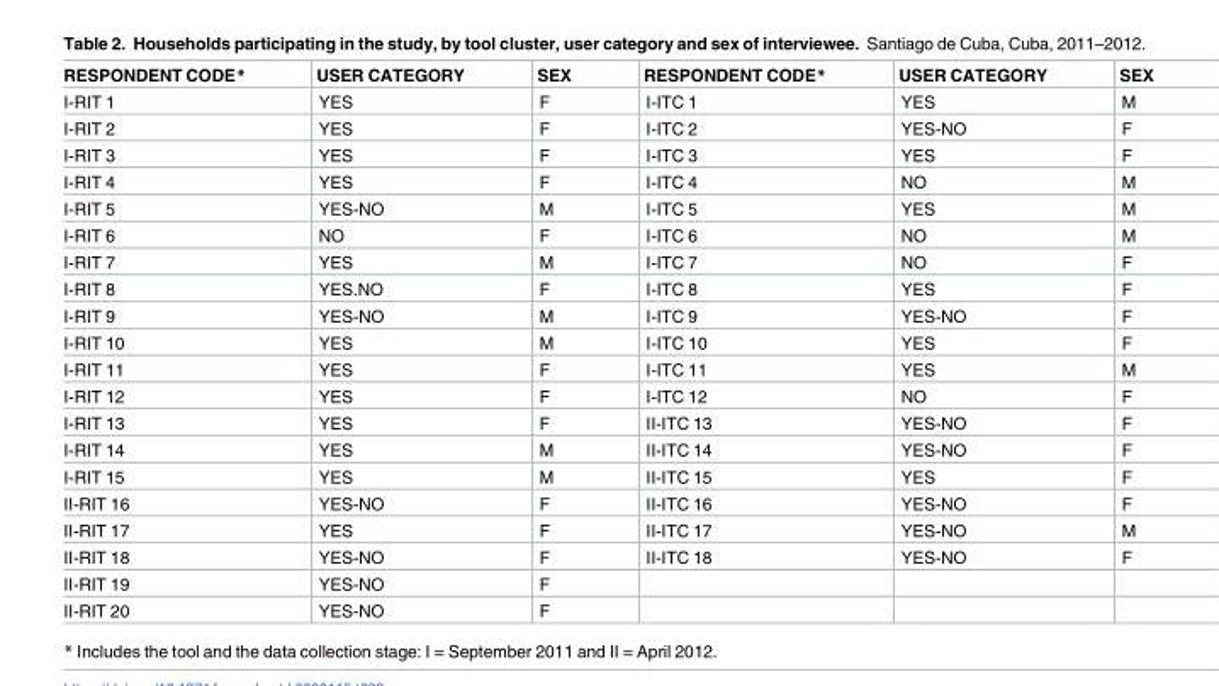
<table><thead><tr><td>RESPONDENT CODE*</td><td>USER CATEGORY</td><td>SEX</td><td>RESPONDENT CODE*</td><td>USER CATEGORY</td><td>SEX</td></tr></thead><tbody><tr><td>I-RIT 1</td><td>YES</td><td>F</td><td>I-ITC 1</td><td>YES</td><td>M</td></tr><tr><td>I-RIT 2</td><td>YES</td><td>F</td><td>I-ITC 2</td><td>YES-NO</td><td>F</td></tr><tr><td>I-RIT 3</td><td>YES</td><td>F</td><td>I-ITC 3</td><td>YES</td><td>F</td></tr><tr><td>I-RIT 4</td><td>YES</td><td>F</td><td>I-ITC 4</td><td>NO</td><td>M</td></tr><tr><td>I-RIT 5</td><td>YES-NO</td><td>M</td><td>I-ITC 5</td><td>YES</td><td>M</td></tr><tr><td>I-RIT 6</td><td>NO</td><td>F</td><td>I-ITC 6</td><td>NO</td><td>M</td></tr><tr><td>I-RIT 7</td><td>YES</td><td>M</td><td>I-ITC 7</td><td>NO</td><td>F</td></tr><tr><td>I-RIT 8</td><td>YES.NO</td><td>F</td><td>I-ITC 8</td><td>YES</td><td>F</td></tr><tr><td>I-RIT 9</td><td>YES-NO</td><td>M</td><td>I-ITC 9</td><td>YES-NO</td><td>F</td></tr><tr><td>I-RIT 10</td><td>YES</td><td>M</td><td>I-ITC 10</td><td>YES</td><td>F</td></tr><tr><td>I-RIT 11</td><td>YES</td><td>F</td><td>I-ITC 11</td><td>YES</td><td>M</td></tr><tr><td>I-RIT 12</td><td>YES</td><td>F</td><td>I-ITC 12</td><td>NO</td><td>F</td></tr><tr><td>I-RIT 13</td><td>YES</td><td>F</td><td>II-ITC 13</td><td>YES-NO</td><td>F</td></tr><tr><td>I-RIT 14</td><td>YES</td><td>M</td><td>II-ITC 14</td><td>YES-NO</td><td>F</td></tr><tr><td>I-RIT 15</td><td>YES</td><td>M</td><td>II-ITC 15</td><td>YES</td><td>F</td></tr><tr><td>II-RIT 16</td><td>YES-NO</td><td>F</td><td>II-ITC 16</td><td>YES-NO</td><td>F</td></tr><tr><td>II-RIT 17</td><td>YES</td><td>F</td><td>II-ITC 17</td><td>YES-NO</td><td>M</td></tr><tr><td>II-RIT 18</td><td>YES-NO</td><td>F</td><td>II-ITC 18</td><td>YES-NO</td><td>F</td></tr><tr><td>II-RIT 19</td><td>YES-NO</td><td>F</td><td></td><td></td><td></td></tr><tr><td>II-RIT 20</td><td>YES-NO</td><td>F</td><td></td><td></td><td></td></tr></tbody></table>